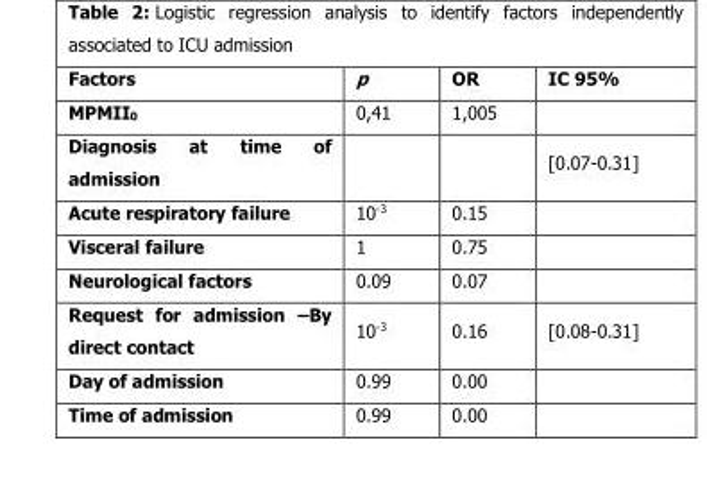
<table><thead><tr><td>Factors</td><td>p</td><td>OR</td><td>IC 95%</td></tr></thead><tbody><tr><td>MPMII<sub>0</sub></td><td>0,41</td><td>1,005</td><td></td></tr><tr><td>Diagnosis at time of admission</td><td></td><td></td><td>[0.07-0.31]</td></tr><tr><td>Acute respiratory failure</td><td>10<sup>-3</sup></td><td>0.15</td><td></td></tr><tr><td>Visceral failure</td><td>1</td><td>0.75</td><td></td></tr><tr><td>Neurological factors</td><td>0.09</td><td>0.07</td><td></td></tr><tr><td>Request for admission –By direct contact</td><td>10<sup>-3</sup></td><td>0.16</td><td>[0.08-0.31]</td></tr><tr><td>Day of admission</td><td>0.99</td><td>0.00</td><td></td></tr><tr><td>Time of admission</td><td>0.99</td><td>0.00</td><td></td></tr></tbody></table>